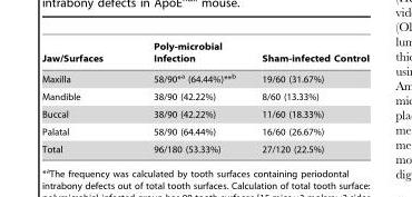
<table><thead><tr><td>Jaw/Surfaces</td><td>Poly-microbial Infection</td><td>Sham-infected Control</td></tr></thead><tbody><tr><td>Maxilla</td><td>58/90*<sup>a</sup> (64.44%)**<sup>b</sup></td><td>19/60 (31.67%)</td></tr><tr><td>Mandible</td><td>38/90 (42.22%)</td><td>8/60 (13.33%)</td></tr><tr><td>Buccal</td><td>38/90 (42.22%)</td><td>11/60 (18.33%)</td></tr><tr><td>Palatal</td><td>58/90 (64.44%)</td><td>16/60 (26.67%)</td></tr><tr><td>Total</td><td>96/180 (53.33%)</td><td>27/120 (22.5%)</td></tr></tbody></table>